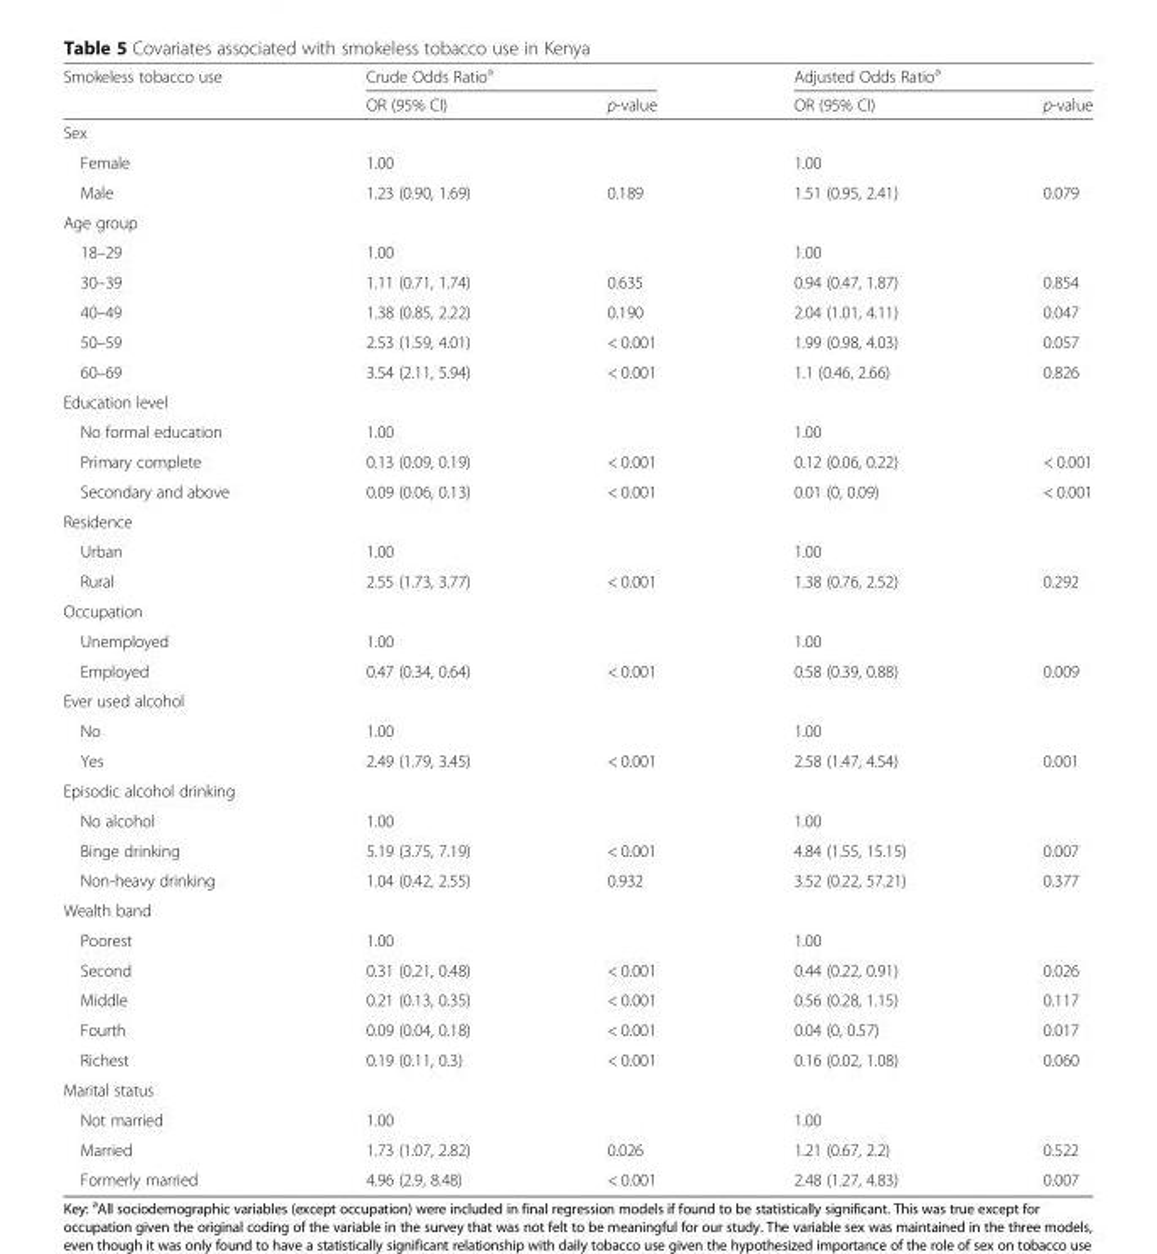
<table><thead><tr><td rowspan="2">Smokeless tobacco use</td><td colspan="2">Crude Odds Ratio<sup>a</sup></td><td colspan="2">Adjusted Odds Ratio<sup>a</sup></td></tr><tr><td>OR (95% CI)</td><td>p-value</td><td>OR (95% CI)</td><td>p-value</td></tr></thead><tbody><tr><td colspan="5">Sex</td></tr><tr><td>Female</td><td>1.00</td><td></td><td>1.00</td><td></td></tr><tr><td>Male</td><td>1.23 (0.90, 1.69)</td><td>0.189</td><td>1.51 (0.95, 2.41)</td><td>0.079</td></tr><tr><td colspan="5">Age group</td></tr><tr><td>18–29</td><td>1.00</td><td></td><td>1.00</td><td></td></tr><tr><td>30–39</td><td>1.11 (0.71, 1.74)</td><td>0.635</td><td>0.94 (0.47, 1.87)</td><td>0.854</td></tr><tr><td>40–49</td><td>1.38 (0.85, 2.22)</td><td>0.190</td><td>2.04 (1.01, 4.11)</td><td>0.047</td></tr><tr><td>50–59</td><td>2.53 (1.59, 4.01)</td><td>&lt; 0.001</td><td>1.99 (0.98, 4.03)</td><td>0.057</td></tr><tr><td>60–69</td><td>3.54 (2.11, 5.94)</td><td>&lt; 0.001</td><td>1.1 (0.46, 2.66)</td><td>0.826</td></tr><tr><td colspan="5">Education level</td></tr><tr><td>No formal education</td><td>1.00</td><td></td><td>1.00</td><td></td></tr><tr><td>Primary complete</td><td>0.13 (0.09, 0.19)</td><td>&lt; 0.001</td><td>0.12 (0.06, 0.22)</td><td>&lt; 0.001</td></tr><tr><td>Secondary and above</td><td>0.09 (0.06, 0.13)</td><td>&lt; 0.001</td><td>0.01 (0, 0.09)</td><td>&lt; 0.001</td></tr><tr><td colspan="5">Residence</td></tr><tr><td>Urban</td><td>1.00</td><td></td><td>1.00</td><td></td></tr><tr><td>Rural</td><td>2.55 (1.73, 3.77)</td><td>&lt; 0.001</td><td>1.38 (0.76, 2.52)</td><td>0.292</td></tr><tr><td colspan="5">Occupation</td></tr><tr><td>Unemployed</td><td>1.00</td><td></td><td>1.00</td><td></td></tr><tr><td>Employed</td><td>0.47 (0.34, 0.64)</td><td>&lt; 0.001</td><td>0.58 (0.39, 0.88)</td><td>0.009</td></tr><tr><td colspan="5">Ever used alcohol</td></tr><tr><td>No</td><td>1.00</td><td></td><td>1.00</td><td></td></tr><tr><td>Yes</td><td>2.49 (1.79, 3.45)</td><td>&lt; 0.001</td><td>2.58 (1.47, 4.54)</td><td>0.001</td></tr><tr><td colspan="5">Episodic alcohol drinking</td></tr><tr><td>No alcohol</td><td>1.00</td><td></td><td>1.00</td><td></td></tr><tr><td>Binge drinking</td><td>5.19 (3.75, 7.19)</td><td>&lt; 0.001</td><td>4.84 (1.55, 15.15)</td><td>0.007</td></tr><tr><td>Non-heavy drinking</td><td>1.04 (0.42, 2.55)</td><td>0.932</td><td>3.52 (0.22, 57.21)</td><td>0.377</td></tr><tr><td colspan="5">Wealth band</td></tr><tr><td>Poorest</td><td>1.00</td><td></td><td>1.00</td><td></td></tr><tr><td>Second</td><td>0.31 (0.21, 0.48)</td><td>&lt; 0.001</td><td>0.44 (0.22, 0.91)</td><td>0.026</td></tr><tr><td>Middle</td><td>0.21 (0.13, 0.35)</td><td>&lt; 0.001</td><td>0.56 (0.28, 1.15)</td><td>0.117</td></tr><tr><td>Fourth</td><td>0.09 (0.04, 0.18)</td><td>&lt; 0.001</td><td>0.04 (0, 0.57)</td><td>0.017</td></tr><tr><td>Richest</td><td>0.19 (0.11, 0.3)</td><td>&lt; 0.001</td><td>0.16 (0.02, 1.08)</td><td>0.060</td></tr><tr><td colspan="5">Marital status</td></tr><tr><td>Not married</td><td>1.00</td><td></td><td>1.00</td><td></td></tr><tr><td>Married</td><td>1.73 (1.07, 2.82)</td><td>0.026</td><td>1.21 (0.67, 2.2)</td><td>0.522</td></tr><tr><td>Formerly married</td><td>4.96 (2.9, 8.48)</td><td>&lt; 0.001</td><td>2.48 (1.27, 4.83)</td><td>0.007</td></tr></tbody></table>